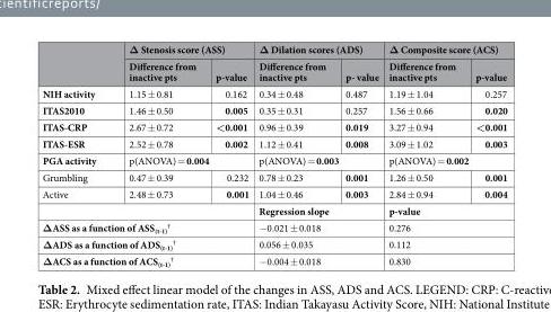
<table><thead><tr><td rowspan="2"></td><td colspan="2">Δ Stenosis score (ASS)</td><td colspan="2">Δ Dilation scores (ADS)</td><td colspan="2">Δ Composite score (ACS)</td></tr><tr><td>Difference from inactive pts</td><td>p-value</td><td>Difference from inactive pts</td><td>p- value</td><td>Difference from inactive pts</td><td>p-value</td></tr></thead><tbody><tr><td>NIH activity</td><td>1.15 ± 0.81</td><td>0.162</td><td>0.34 ± 0.48</td><td>0.487</td><td>1.19 ± 1.04</td><td>0.257</td></tr><tr><td>ITAS2010</td><td>1.46 ± 0.50</td><td>0.005</td><td>0.35 ± 0.31</td><td>0.257</td><td>1.56 ± 0.66</td><td>0.020</td></tr><tr><td>ITAS-CRP</td><td>2.67 ± 0.72</td><td>&lt;0.001</td><td>0.96 ± 0.39</td><td>0.019</td><td>3.27 ± 0.94</td><td>&lt;0.001</td></tr><tr><td>ITAS-ESR</td><td>2.52 ± 0.78</td><td>0.002</td><td>1.12 ± 0.41</td><td>0.008</td><td>3.09 ± 1.02</td><td>0.003</td></tr><tr><td>PGA activity</td><td colspan="2">p(ANOVA) = 0.004</td><td colspan="2">p(ANOVA) = 0.003</td><td colspan="2">p(ANOVA) = 0.002</td></tr><tr><td>Grumbling</td><td>0.47 ± 0.39</td><td>0.232</td><td>0.78 ± 0.23</td><td>0.001</td><td>1.26 ± 0.50</td><td>0.001</td></tr><tr><td>Active</td><td>2.48 ± 0.73</td><td>0.001</td><td>1.04 ± 0.46</td><td>0.003</td><td>2.84 ± 0.94</td><td>0.004</td></tr><tr><td colspan="3"></td><td colspan="2">Regression slope</td><td colspan="2">p-value</td></tr><tr><td colspan="3">ΔASS as a function of ASS<sub>(t-1)</sub> <sup>†</sup></td><td colspan="2">−0.021 ± 0.018</td><td colspan="2">0.276</td></tr><tr><td colspan="3">ΔADS as a function of ADS<sub>(t-1)</sub> <sup>†</sup></td><td colspan="2">0.056 ± 0.035</td><td colspan="2">0.112</td></tr><tr><td colspan="3">ΔACS as a function of ACS<sub>(t-1)</sub> <sup>†</sup></td><td colspan="2">−0.004 ± 0.018</td><td colspan="2">0.830</td></tr></tbody></table>